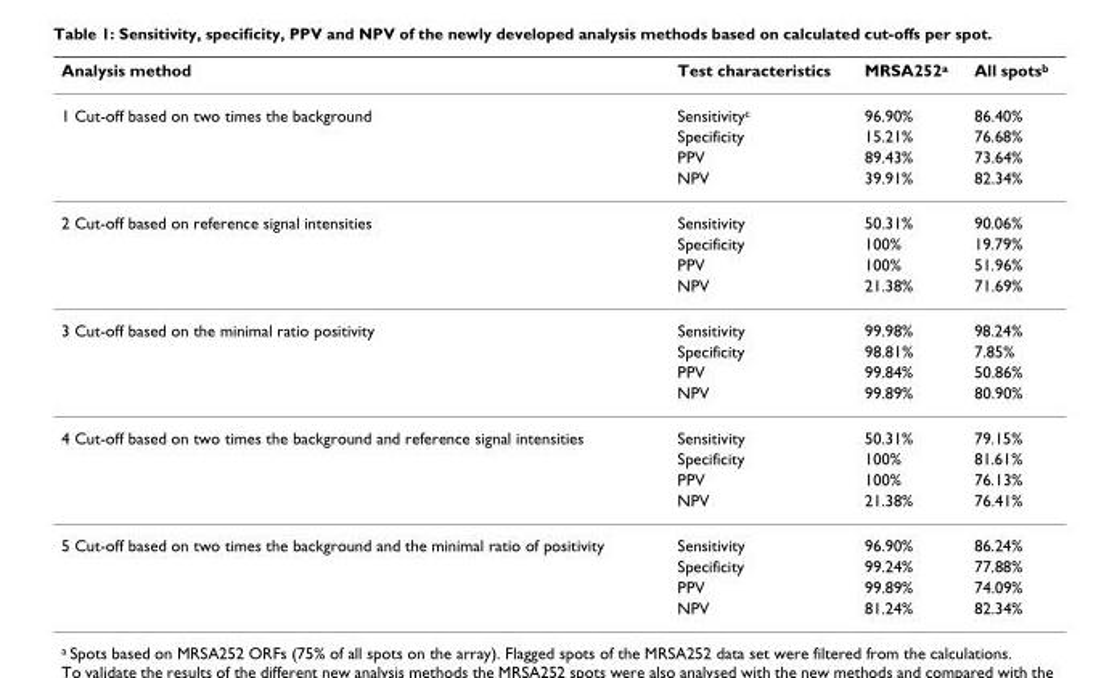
<table><thead><tr><td>Analysis method</td><td>Test characteristics</td><td>MRSA252<sup>a</sup></td><td>All spots<sup>b</sup></td></tr></thead><tbody><tr><td rowspan="4">1 Cut-off based on two times the background</td><td>Sensitivity<sup>c</sup></td><td>96.90%</td><td>86.40%</td></tr><tr><td>Specificity</td><td>15.21%</td><td>76.68%</td></tr><tr><td>PPV</td><td>89.43%</td><td>73.64%</td></tr><tr><td>NPV</td><td>39.91%</td><td>82.34%</td></tr><tr><td rowspan="4">2 Cut-off based on reference signal intensities</td><td>Sensitivity</td><td>50.31%</td><td>90.06%</td></tr><tr><td>Specificity</td><td>100%</td><td>19.79%</td></tr><tr><td>PPV</td><td>100%</td><td>51.96%</td></tr><tr><td>NPV</td><td>21.38%</td><td>71.69%</td></tr><tr><td rowspan="4">3 Cut-off based on the minimal ratio positivity</td><td>Sensitivity</td><td>99.98%</td><td>98.24%</td></tr><tr><td>Specificity</td><td>98.81%</td><td>7.85%</td></tr><tr><td>PPV</td><td>99.84%</td><td>50.86%</td></tr><tr><td>NPV</td><td>99.89%</td><td>80.90%</td></tr><tr><td rowspan="4">4 Cut-off based on two times the background and reference signal intensities</td><td>Sensitivity</td><td>50.31%</td><td>79.15%</td></tr><tr><td>Specificity</td><td>100%</td><td>81.61%</td></tr><tr><td>PPV</td><td>100%</td><td>76.13%</td></tr><tr><td>NPV</td><td>21.38%</td><td>76.41%</td></tr><tr><td rowspan="4">5 Cut-off based on two times the background and the minimal ratio of positivity</td><td>Sensitivity</td><td>96.90%</td><td>86.24%</td></tr><tr><td>Specificity</td><td>99.24%</td><td>77.88%</td></tr><tr><td>PPV</td><td>99.89%</td><td>74.09%</td></tr><tr><td>NPV</td><td>81.24%</td><td>82.34%</td></tr></tbody></table>